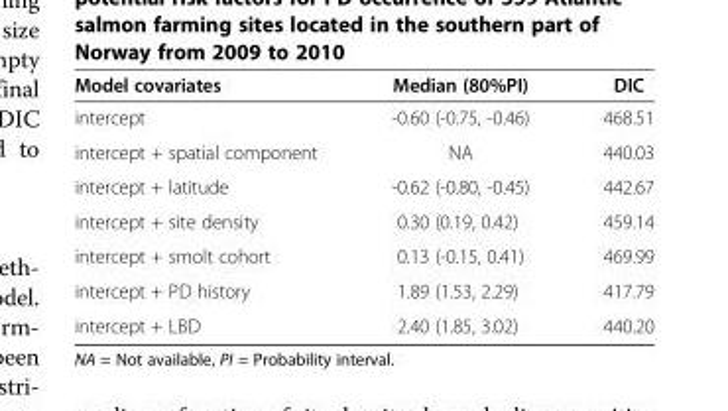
<table><thead><tr><td>Model covariates</td><td>Median (80%PI)</td><td>DIC</td></tr></thead><tbody><tr><td>intercept</td><td>-0.60 (-0.75, -0.46)</td><td>468.51</td></tr><tr><td>intercept + spatial component</td><td>NA</td><td>440.03</td></tr><tr><td>intercept + latitude</td><td>-0.62 (-0.80, -0.45)</td><td>442.67</td></tr><tr><td>intercept + site density</td><td>0.30 (0.19, 0.42)</td><td>459.14</td></tr><tr><td>intercept + smolt cohort</td><td>0.13 (-0.15, 0.41)</td><td>469.99</td></tr><tr><td>intercept + PD history</td><td>1.89 (1.53, 2.29)</td><td>417.79</td></tr><tr><td>intercept + LBD</td><td>2.40 (1.85, 3.02)</td><td>440.20</td></tr></tbody></table>